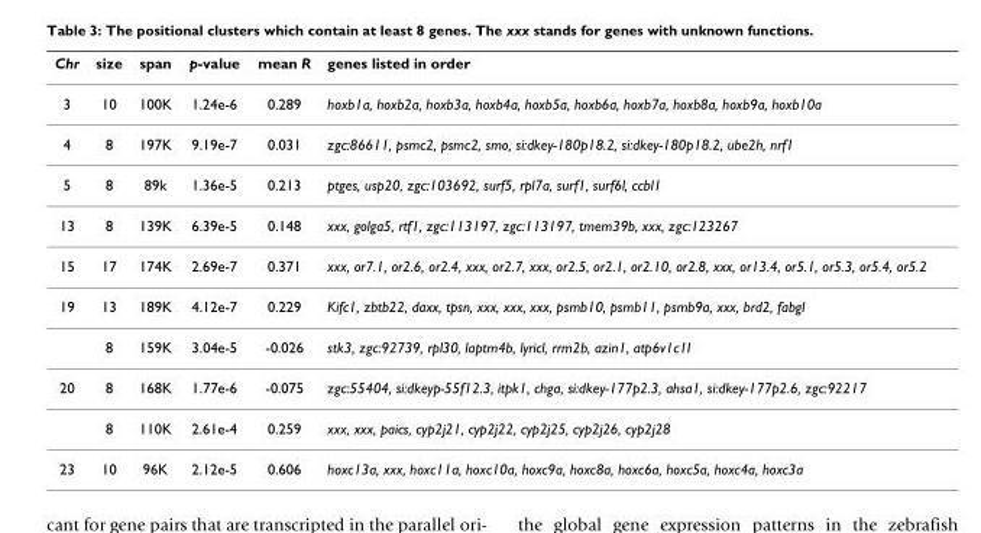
<table><thead><tr><td>Chr</td><td>size</td><td>span</td><td>p-value</td><td>mean R</td><td>genes listed in order</td></tr></thead><tbody><tr><td>3</td><td>10</td><td>100K</td><td>1.24e-6</td><td>0.289</td><td>hoxb1a, hoxb2a, hoxb3a, hoxb4a, hoxb5a, hoxb6a, hoxb7a, hoxb8a, hoxb9a, hoxb10a</td></tr><tr><td>4</td><td>8</td><td>197K</td><td>9.19e-7</td><td>0.031</td><td>zgc:86611, psmc2, psmc2, smo, si:dkey-180p18.2, si:dkey-180p18.2, ube2h, nrf1</td></tr><tr><td>5</td><td>8</td><td>89k</td><td>1.36e-5</td><td>0.213</td><td>ptges, usp20, zgc:103692, surf5, rpl7a, surf1, surf6l, ccbl1</td></tr><tr><td>13</td><td>8</td><td>139K</td><td>6.39e-5</td><td>0.148</td><td>xxx, golga5, rtf1, zgc:113197, zgc:113197, tmem39b, xxx, zgc:123267</td></tr><tr><td>15</td><td>17</td><td>174K</td><td>2.69e-7</td><td>0.371</td><td>xxx, or7.1, or2.6, or2.4, xxx, or2.7, xxx, or2.5, or2.1, or2.10, or2.8, xxx, or13.4, or5.1, or5.3, or5.4, or5.2</td></tr><tr><td rowspan="2">19</td><td>13</td><td>189K</td><td>4.12e-7</td><td>0.229</td><td>Kifc1, zbtb22, daxx, tpsn, xxx, xxx, xxx, psmb10, psmb11, psmb9a, xxx, brd2, fabgl</td></tr><tr><td>8</td><td>159K</td><td>3.04e-5</td><td>-0.026</td><td>stk3, zgc:92739, rpl30, laptm4b, lyricl, rrm2b, azin1, atp6v1c1l</td></tr><tr><td rowspan="2">20</td><td>8</td><td>168K</td><td>1.77e-6</td><td>-0.075</td><td>zgc:55404, si:dkeyp-55f12.3, itpk1, chga, si:dkey-177p2.3, ahsa1, si:dkey-177p2.6, zgc:92217</td></tr><tr><td>8</td><td>110K</td><td>2.61e-4</td><td>0.259</td><td>xxx, xxx, paics, cyp2j21, cyp2j22, cyp2j25, cyp2j26, cyp2j28</td></tr><tr><td>23</td><td>10</td><td>96K</td><td>2.12e-5</td><td>0.606</td><td>hoxc13a, xxx, hoxc11a, hoxc10a, hoxc9a, hoxc8a, hoxc6a, hoxc5a, hoxc4a, hoxc3a</td></tr></tbody></table>